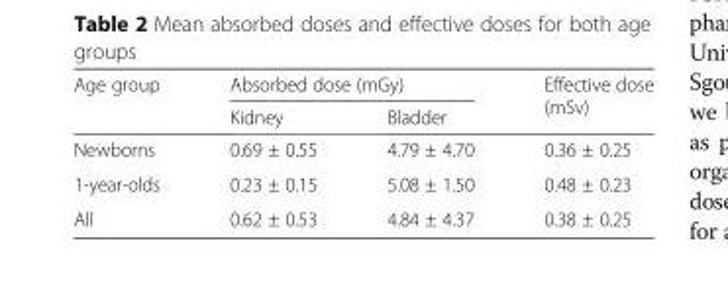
<table><thead><tr><td rowspan="2">Age group</td><td colspan="2">Absorbed dose (mGy)</td><td rowspan="2">Effective dose (mSv)</td></tr><tr><td>Kidney</td><td>Bladder</td></tr></thead><tbody><tr><td>Newborns</td><td>0.69 ± 0.55</td><td>4.79 ± 4.70</td><td>0.36 ± 0.25</td></tr><tr><td>1-year-olds</td><td>0.23 ± 0.15</td><td>5.08 ± 1.50</td><td>0.48 ± 0.23</td></tr><tr><td>All</td><td>0.62 ± 0.53</td><td>4.84 ± 4.37</td><td>0.38 ± 0.25</td></tr></tbody></table>